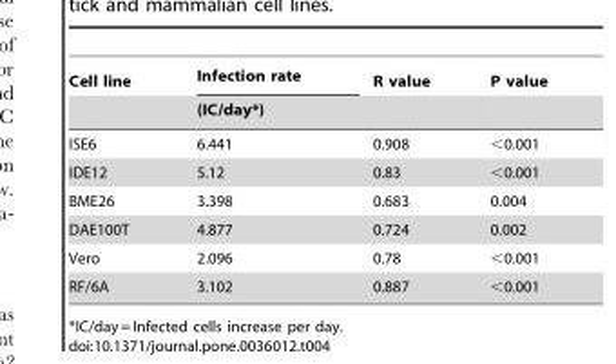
<table><thead><tr><td rowspan="2">Cell line</td><td rowspan="2">Infection rate (IC/day*)</td><td rowspan="2">R value</td><td rowspan="2">P value</td></tr><tr></tr></thead><tbody><tr><td>ISE6</td><td>6.441</td><td>0.908</td><td>&lt;0.001</td></tr><tr><td>IDE12</td><td>5.12</td><td>0.83</td><td>&lt;0.001</td></tr><tr><td>BME26</td><td>3.398</td><td>0.683</td><td>0.004</td></tr><tr><td>DAE100T</td><td>4.877</td><td>0.724</td><td>0.002</td></tr><tr><td>Vero</td><td>2.096</td><td>0.78</td><td>&lt;0.001</td></tr><tr><td>RF/6A</td><td>3.102</td><td>0.887</td><td>&lt;0.001</td></tr></tbody></table>